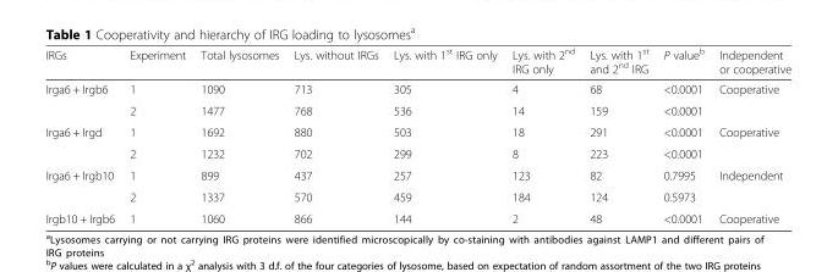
<table><thead><tr><td>IRGs</td><td>Experiment</td><td>Total lysosomes</td><td>Lys. without IRGs</td><td>Lys. with 1<sup>st</sup> IRG only</td><td>Lys. with 2<sup>nd</sup> IRG only</td><td>Lys. with 1<sup>st</sup> and 2<sup>nd</sup> IRG</td><td>P value<sup>b</sup></td><td>Independent or cooperative</td></tr></thead><tbody><tr><td rowspan="2">Irga6 + Irgb6</td><td>1</td><td>1090</td><td>713</td><td>305</td><td>4</td><td>68</td><td>&lt;0.0001</td><td rowspan="2">Cooperative</td></tr><tr><td>2</td><td>1477</td><td>768</td><td>536</td><td>14</td><td>159</td><td>&lt;0.0001</td></tr><tr><td rowspan="2">Irga6 + Irgd</td><td>1</td><td>1692</td><td>880</td><td>503</td><td>18</td><td>291</td><td>&lt;0.0001</td><td rowspan="2">Cooperative</td></tr><tr><td>2</td><td>1232</td><td>702</td><td>299</td><td>8</td><td>223</td><td>&lt;0.0001</td></tr><tr><td rowspan="2">Irga6 + Irgb10</td><td>1</td><td>899</td><td>437</td><td>257</td><td>123</td><td>82</td><td>0.7995</td><td rowspan="2">Independent</td></tr><tr><td>2</td><td>1337</td><td>570</td><td>459</td><td>184</td><td>124</td><td>0.5973</td></tr><tr><td>Irgb10 + Irgb6</td><td>1</td><td>1060</td><td>866</td><td>144</td><td>2</td><td>48</td><td>&lt;0.0001</td><td>Cooperative</td></tr></tbody></table>